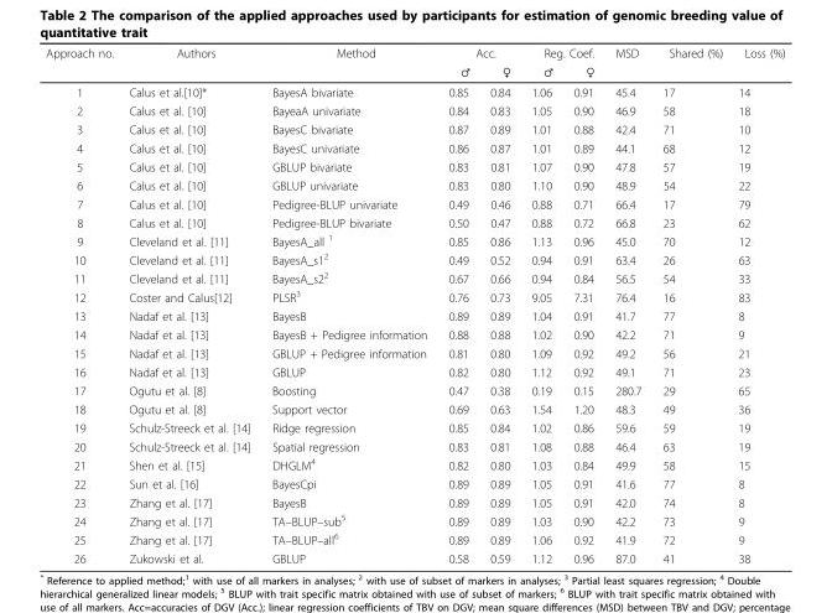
<table><thead><tr><td rowspan="2">Approach no.</td><td rowspan="2">Authors</td><td rowspan="2">Method</td><td colspan="2">Acc.</td><td colspan="2">Reg. Coef.</td><td rowspan="2">MSD</td><td rowspan="2">Shared (%)</td><td rowspan="2">Loss (%)</td></tr><tr><td>♂</td><td>♀</td><td>♂</td><td>♀</td></tr></thead><tbody><tr><td>1</td><td>Calus et al.[10]*</td><td>BayesA bivariate</td><td>0.85</td><td>0.84</td><td>1.06</td><td>0.91</td><td>45.4</td><td>17</td><td>14</td></tr><tr><td>2</td><td>Calus et al. [10]</td><td>BayeaA univariate</td><td>0.84</td><td>0.83</td><td>1.05</td><td>0.90</td><td>46.9</td><td>58</td><td>18</td></tr><tr><td>3</td><td>Calus et al. [10]</td><td>BayesC bivariate</td><td>0.87</td><td>0.89</td><td>1.01</td><td>0.88</td><td>42.4</td><td>71</td><td>10</td></tr><tr><td>4</td><td>Calus et al. [10]</td><td>BayesC univariate</td><td>0.86</td><td>0.87</td><td>1.01</td><td>0.89</td><td>44.1</td><td>68</td><td>12</td></tr><tr><td>5</td><td>Calus et al. [10]</td><td>GBLUP bivariate</td><td>0.83</td><td>0.81</td><td>1.07</td><td>0.90</td><td>47.8</td><td>57</td><td>19</td></tr><tr><td>6</td><td>Calus et al. [10]</td><td>GBLUP univariate</td><td>0.83</td><td>0.80</td><td>1.10</td><td>0.90</td><td>48.9</td><td>54</td><td>22</td></tr><tr><td>7</td><td>Calus et al. [10]</td><td>Pedigree-BLUP univariate</td><td>0.49</td><td>0.46</td><td>0.88</td><td>0.71</td><td>66.4</td><td>17</td><td>79</td></tr><tr><td>8</td><td>Calus et al. [10]</td><td>Pedigree-BLUP bivariate</td><td>0.50</td><td>0.47</td><td>0.88</td><td>0.72</td><td>66.8</td><td>23</td><td>62</td></tr><tr><td>9</td><td>Cleveland et al. [11]</td><td>BayesA_all <sup>1</sup></td><td>0.85</td><td>0.86</td><td>1.13</td><td>0.96</td><td>45.0</td><td>70</td><td>12</td></tr><tr><td>10</td><td>Cleveland et al. [11]</td><td>BayesA_s1<sup>2</sup></td><td>0.49</td><td>0.52</td><td>0.94</td><td>0.91</td><td>63.4</td><td>26</td><td>63</td></tr><tr><td>11</td><td>Cleveland et al. [11]</td><td>BayesA_s2<sup>2</sup></td><td>0.67</td><td>0.66</td><td>0.94</td><td>0.84</td><td>56.5</td><td>54</td><td>33</td></tr><tr><td>12</td><td>Coster and Calus[12]</td><td>PLSR<sup>3</sup></td><td>0.76</td><td>0.73</td><td>9.05</td><td>7.31</td><td>76.4</td><td>16</td><td>83</td></tr><tr><td>13</td><td>Nadaf et al. [13]</td><td>BayesB</td><td>0.89</td><td>0.89</td><td>1.04</td><td>0.91</td><td>41.7</td><td>77</td><td>8</td></tr><tr><td>14</td><td>Nadaf et al. [13]</td><td>BayesB + Pedigree information</td><td>0.88</td><td>0.88</td><td>1.02</td><td>0.90</td><td>42.2</td><td>71</td><td>9</td></tr><tr><td>15</td><td>Nadaf et al. [13]</td><td>GBLUP + Pedigree information</td><td>0.81</td><td>0.80</td><td>1.09</td><td>0.92</td><td>49.2</td><td>56</td><td>21</td></tr><tr><td>16</td><td>Nadaf et al. [13]</td><td>GBLUP</td><td>0.82</td><td>0.80</td><td>1.12</td><td>0.92</td><td>49.1</td><td>71</td><td>23</td></tr><tr><td>17</td><td>Ogutu et al. [8]</td><td>Boosting</td><td>0.47</td><td>0.38</td><td>0.19</td><td>0.15</td><td>280.7</td><td>29</td><td>65</td></tr><tr><td>18</td><td>Ogutu et al. [8]</td><td>Support vector</td><td>0.69</td><td>0.63</td><td>1.54</td><td>1.20</td><td>48.3</td><td>49</td><td>36</td></tr><tr><td>19</td><td>Schulz-Streeck et al. [14]</td><td>Ridge regression</td><td>0.85</td><td>0.84</td><td>1.02</td><td>0.86</td><td>59.6</td><td>59</td><td>19</td></tr><tr><td>20</td><td>Schulz-Streeck et al. [14]</td><td>Spatial regression</td><td>0.83</td><td>0.81</td><td>1.08</td><td>0.88</td><td>46.4</td><td>63</td><td>19</td></tr><tr><td>21</td><td>Shen et al. [15]</td><td>DHGLM<sup>4</sup></td><td>0.82</td><td>0.80</td><td>1.03</td><td>0.84</td><td>49.9</td><td>58</td><td>15</td></tr><tr><td>22</td><td>Sun et al. [16]</td><td>BayesCpi</td><td>0.89</td><td>0.89</td><td>1.05</td><td>0.91</td><td>41.6</td><td>77</td><td>8</td></tr><tr><td>23</td><td>Zhang et al. [17]</td><td>BayesB</td><td>0.89</td><td>0.89</td><td>1.05</td><td>0.91</td><td>42.0</td><td>74</td><td>8</td></tr><tr><td>24</td><td>Zhang et al. [17]</td><td>TA–BLUP–sub<sup>5</sup></td><td>0.89</td><td>0.89</td><td>1.03</td><td>0.90</td><td>42.2</td><td>73</td><td>9</td></tr><tr><td>25</td><td>Zhang et al. [17]</td><td>TA–BLUP–all<sup>6</sup></td><td>0.89</td><td>0.89</td><td>1.06</td><td>0.92</td><td>41.9</td><td>72</td><td>9</td></tr><tr><td>26</td><td>Zukowski et al.</td><td>GBLUP</td><td>0.58</td><td>0.59</td><td>1.12</td><td>0.96</td><td>87.0</td><td>41</td><td>38</td></tr></tbody></table>